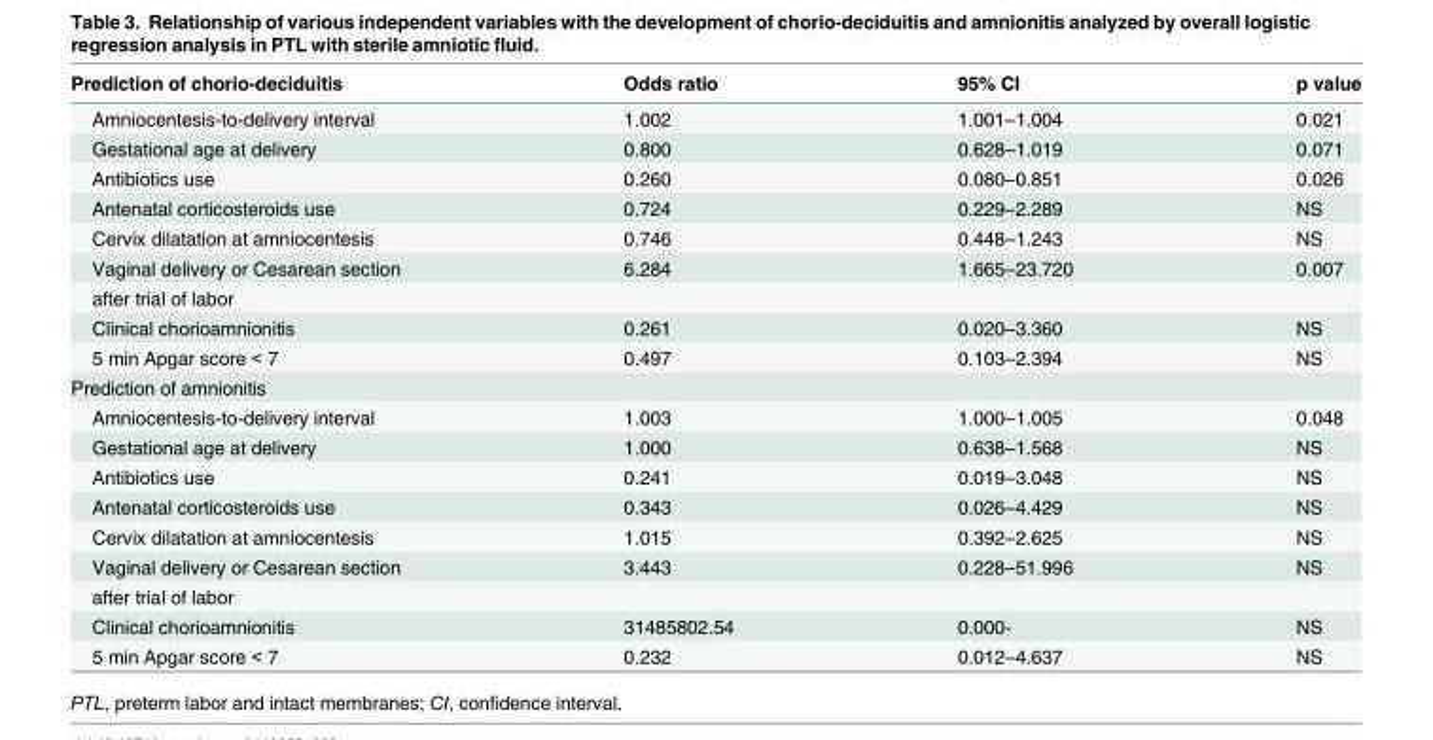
<table><thead><tr><td>Prediction of chorio-deciduitis</td><td>Odds ratio</td><td>95% CI</td><td>p value</td></tr></thead><tbody><tr><td>Amniocentesis-to-delivery interval</td><td>1.002</td><td>1.001–1.004</td><td>0.021</td></tr><tr><td>Gestational age at delivery</td><td>0.800</td><td>0.628–1.019</td><td>0.071</td></tr><tr><td>Antibiotics use</td><td>0.260</td><td>0.080–0.851</td><td>0.026</td></tr><tr><td>Antenatal corticosteroids use</td><td>0.724</td><td>0.229–2.289</td><td>NS</td></tr><tr><td>Cervix dilatation at amniocentesis</td><td>0.746</td><td>0.448–1.243</td><td>NS</td></tr><tr><td>Vaginal delivery or Cesarean section</td><td>6.284</td><td>1.665–23.720</td><td>0.007</td></tr><tr><td colspan="4">after trial of labor</td></tr><tr><td>Clinical chorioamnionitis</td><td>0.261</td><td>0.020–3.360</td><td>NS</td></tr><tr><td>5 min Apgar score &lt; 7</td><td>0.497</td><td>0.103–2.394</td><td>NS</td></tr><tr><td colspan="4">Prediction of amnionitis</td></tr><tr><td>Amniocentesis-to-delivery interval</td><td>1.003</td><td>1.000–1.005</td><td>0.048</td></tr><tr><td>Gestational age at delivery</td><td>1.000</td><td>0.638–1.568</td><td>NS</td></tr><tr><td>Antibiotics use</td><td>0.241</td><td>0.019–3.048</td><td>NS</td></tr><tr><td>Antenatal corticosteroids use</td><td>0.343</td><td>0.026–4.429</td><td>NS</td></tr><tr><td>Cervix dilatation at amniocentesis</td><td>1.015</td><td>0.392–2.625</td><td>NS</td></tr><tr><td>Vaginal delivery or Cesarean section</td><td>3.443</td><td>0.228–51.996</td><td>NS</td></tr><tr><td colspan="4">after trial of labor</td></tr><tr><td>Clinical chorioamnionitis</td><td>31485802.54</td><td>0.000-</td><td>NS</td></tr><tr><td>5 min Apgar score &lt; 7</td><td>0.232</td><td>0.012–4.637</td><td>NS</td></tr></tbody></table>